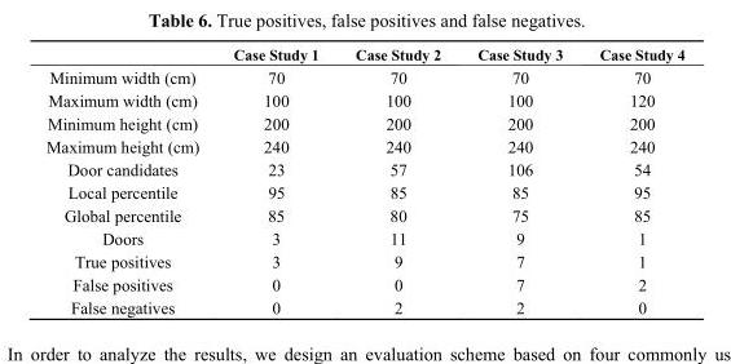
<table><thead><tr><td></td><td>Case Study 1</td><td>Case Study 2</td><td>Case Study 3</td><td>Case Study 4</td></tr></thead><tbody><tr><td>Minimum width (cm)</td><td>70</td><td>70</td><td>70</td><td>70</td></tr><tr><td>Maximum width (cm)</td><td>100</td><td>100</td><td>100</td><td>120</td></tr><tr><td>Minimum height (cm)</td><td>200</td><td>200</td><td>200</td><td>200</td></tr><tr><td>Maximum height (cm)</td><td>240</td><td>240</td><td>240</td><td>240</td></tr><tr><td>Door candidates</td><td>23</td><td>57</td><td>106</td><td>54</td></tr><tr><td>Local percentile</td><td>95</td><td>85</td><td>85</td><td>95</td></tr><tr><td>Global percentile</td><td>85</td><td>80</td><td>75</td><td>85</td></tr><tr><td>Doors</td><td>3</td><td>11</td><td>9</td><td>1</td></tr><tr><td>True positives</td><td>3</td><td>9</td><td>7</td><td>1</td></tr><tr><td>False positives</td><td>0</td><td>0</td><td>7</td><td>2</td></tr><tr><td>False negatives</td><td>0</td><td>2</td><td>2</td><td>0</td></tr></tbody></table>